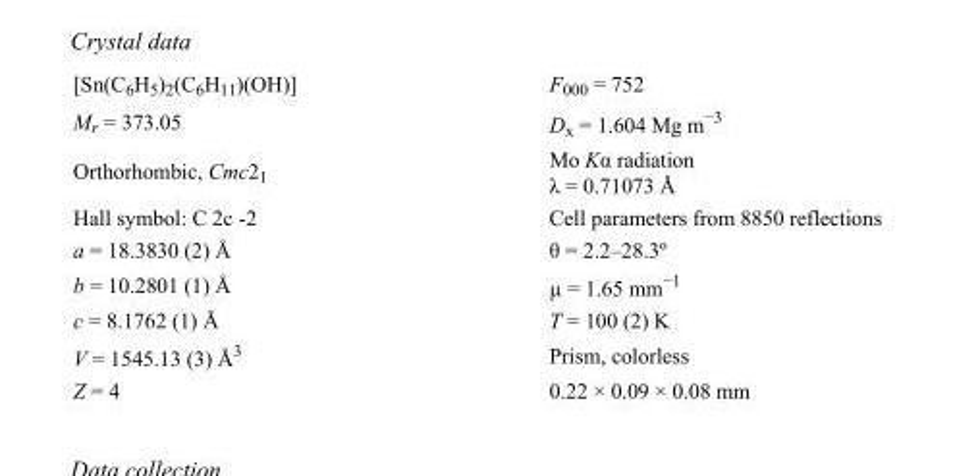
<table><tbody><tr><td>[Sn(C<sub>6</sub>H<sub>5</sub>)<sub>2</sub>(C<sub>6</sub>H<sub>11</sub>)(OH)]</td><td>F<sub>000</sub> = 752</td></tr><tr><td>M<sub>r</sub> = 373.05</td><td>D<sub>x</sub> = 1.604 Mg m<sup>−3</sup></td></tr><tr><td>Orthorhombic, Cmc2<sub>1</sub></td><td>Mo Kα radiation λ = 0.71073 Å</td></tr><tr><td>Hall symbol: C 2c -2</td><td>Cell parameters from 8850 reflections</td></tr><tr><td>a = 18.3830 (2) Å</td><td>θ = 2.2–28.3º</td></tr><tr><td>b = 10.2801 (1) Å</td><td>µ = 1.65 mm<sup>−1</sup></td></tr><tr><td>c = 8.1762 (1) Å</td><td>T = 100 (2) K</td></tr><tr><td>V = 1545.13 (3) Å<sup>3</sup></td><td>Prism, colorless</td></tr><tr><td>Z = 4</td><td>0.22 × 0.09 × 0.08 mm</td></tr></tbody></table>